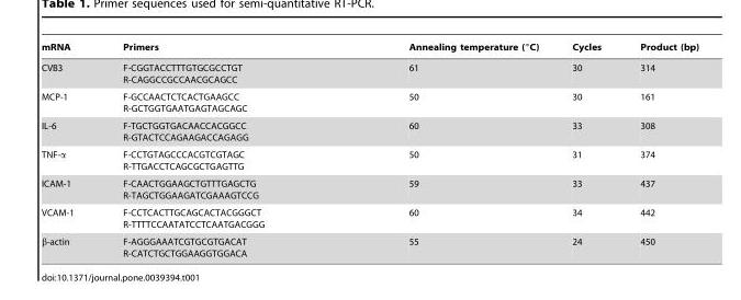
<table><thead><tr><td>mRNA</td><td>Primers</td><td>Annealing temperature (°C)</td><td>Cycles</td><td>Product (bp)</td></tr></thead><tbody><tr><td>CVB3</td><td>F-CGGTACCTTTGTGCGCCTGT R-CAGGCCGCCAACGCAGCC</td><td>61</td><td>30</td><td>314</td></tr><tr><td>MCP-1</td><td>F-GCCAACTCTCACTGAAGCC R-GCTGGTGAATGAGTAGCAGC</td><td>50</td><td>30</td><td>161</td></tr><tr><td>IL-6</td><td>F-TGCTGGTGACAACCACGGCC R-GTACTCCAGAAGACCAGAGG</td><td>60</td><td>33</td><td>308</td></tr><tr><td>TNF-α</td><td>F-CCTGTAGCCCACGTCGTAGC R-TTGACCTCAGCGCTGAGTTG</td><td>50</td><td>31</td><td>374</td></tr><tr><td>ICAM-1</td><td>F-CAACTGGAAGCTGTTTGAGCTG R-TAGCTGGAAGATCGAAAGTCCG</td><td>59</td><td>33</td><td>437</td></tr><tr><td>VCAM-1</td><td>F-CCTCACTTGCAGCACTACGGGCT R-TTTTCCAATATCCTCAATGACGGG</td><td>60</td><td>34</td><td>442</td></tr><tr><td>β-actin</td><td>F-AGGGAAATCGTGCGTGACAT R-CATCTGCTGGAAGGTGGACA</td><td>55</td><td>24</td><td>450</td></tr></tbody></table>